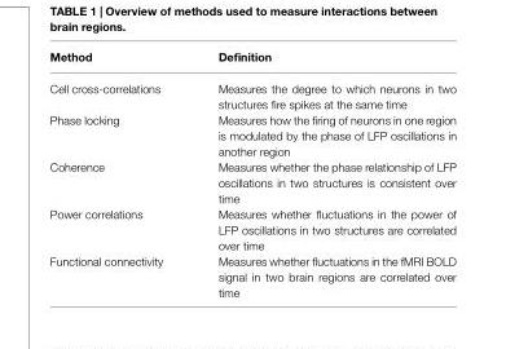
<table><thead><tr><td>Method</td><td>Definition</td></tr></thead><tbody><tr><td>Cell cross-correlations</td><td>Measures the degree to which neurons in two structures fire spikes at the same time</td></tr><tr><td>Phase locking</td><td>Measures how the firing of neurons in one region is modulated by the phase of LFP oscillations in another region</td></tr><tr><td>Coherence</td><td>Measures whether the phase relationship of LFP oscillations in two structures is consistent over time</td></tr><tr><td>Power correlations</td><td>Measures whether fluctuations in the power of LFP oscillations in two structures are correlated over time</td></tr><tr><td>Functional connectivity</td><td>Measures whether fluctuations in the fMRI BOLD signal in two brain regions are correlated over time</td></tr></tbody></table>